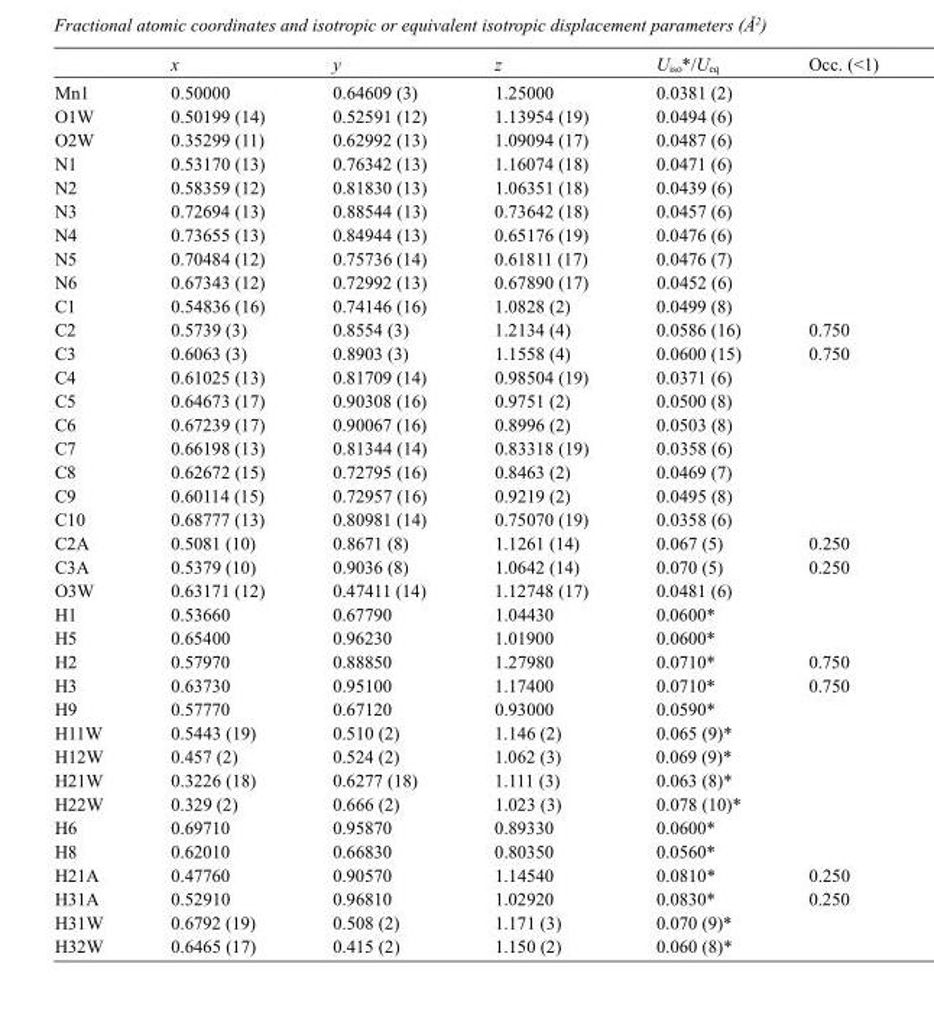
<table><thead><tr><td></td><td>x</td><td>y</td><td>z</td><td>U<sub>iso</sub>*/U<sub>eq</sub></td><td>Occ. (&lt;1)</td></tr></thead><tbody><tr><td>Mn1</td><td>0.50000</td><td>0.64609 (3)</td><td>1.25000</td><td>0.0381 (2)</td><td></td></tr><tr><td>O1W</td><td>0.50199 (14)</td><td>0.52591 (12)</td><td>1.13954 (19)</td><td>0.0494 (6)</td><td></td></tr><tr><td>O2W</td><td>0.35299 (11)</td><td>0.62992 (13)</td><td>1.09094 (17)</td><td>0.0487 (6)</td><td></td></tr><tr><td>N1</td><td>0.53170 (13)</td><td>0.76342 (13)</td><td>1.16074 (18)</td><td>0.0471 (6)</td><td></td></tr><tr><td>N2</td><td>0.58359 (12)</td><td>0.81830 (13)</td><td>1.06351 (18)</td><td>0.0439 (6)</td><td></td></tr><tr><td>N3</td><td>0.72694 (13)</td><td>0.88544 (13)</td><td>0.73642 (18)</td><td>0.0457 (6)</td><td></td></tr><tr><td>N4</td><td>0.73655 (13)</td><td>0.84944 (13)</td><td>0.65176 (19)</td><td>0.0476 (6)</td><td></td></tr><tr><td>N5</td><td>0.70484 (12)</td><td>0.75736 (14)</td><td>0.61811 (17)</td><td>0.0476 (7)</td><td></td></tr><tr><td>N6</td><td>0.67343 (12)</td><td>0.72992 (13)</td><td>0.67890 (17)</td><td>0.0452 (6)</td><td></td></tr><tr><td>C1</td><td>0.54836 (16)</td><td>0.74146 (16)</td><td>1.0828 (2)</td><td>0.0499 (8)</td><td></td></tr><tr><td>C2</td><td>0.5739 (3)</td><td>0.8554 (3)</td><td>1.2134 (4)</td><td>0.0586 (16)</td><td>0.750</td></tr><tr><td>C3</td><td>0.6063 (3)</td><td>0.8903 (3)</td><td>1.1558 (4)</td><td>0.0600 (15)</td><td>0.750</td></tr><tr><td>C4</td><td>0.61025 (13)</td><td>0.81709 (14)</td><td>0.98504 (19)</td><td>0.0371 (6)</td><td></td></tr><tr><td>C5</td><td>0.64673 (17)</td><td>0.90308 (16)</td><td>0.9751 (2)</td><td>0.0500 (8)</td><td></td></tr><tr><td>C6</td><td>0.67239 (17)</td><td>0.90067 (16)</td><td>0.8996 (2)</td><td>0.0503 (8)</td><td></td></tr><tr><td>C7</td><td>0.66198 (13)</td><td>0.81344 (14)</td><td>0.83318 (19)</td><td>0.0358 (6)</td><td></td></tr><tr><td>C8</td><td>0.62672 (15)</td><td>0.72795 (16)</td><td>0.8463 (2)</td><td>0.0469 (7)</td><td></td></tr><tr><td>C9</td><td>0.60114 (15)</td><td>0.72957 (16)</td><td>0.9219 (2)</td><td>0.0495 (8)</td><td></td></tr><tr><td>C10</td><td>0.68777 (13)</td><td>0.80981 (14)</td><td>0.75070 (19)</td><td>0.0358 (6)</td><td></td></tr><tr><td>C2A</td><td>0.5081 (10)</td><td>0.8671 (8)</td><td>1.1261 (14)</td><td>0.067 (5)</td><td>0.250</td></tr><tr><td>C3A</td><td>0.5379 (10)</td><td>0.9036 (8)</td><td>1.0642 (14)</td><td>0.070 (5)</td><td>0.250</td></tr><tr><td>O3W</td><td>0.63171 (12)</td><td>0.47411 (14)</td><td>1.12748 (17)</td><td>0.0481 (6)</td><td></td></tr><tr><td>H1</td><td>0.53660</td><td>0.67790</td><td>1.04430</td><td>0.0600*</td><td></td></tr><tr><td>H5</td><td>0.65400</td><td>0.96230</td><td>1.01900</td><td>0.0600*</td><td></td></tr><tr><td>H2</td><td>0.57970</td><td>0.88850</td><td>1.27980</td><td>0.0710*</td><td>0.750</td></tr><tr><td>H3</td><td>0.63730</td><td>0.95100</td><td>1.17400</td><td>0.0710*</td><td>0.750</td></tr><tr><td>H9</td><td>0.57770</td><td>0.67120</td><td>0.93000</td><td>0.0590*</td><td></td></tr><tr><td>H11W</td><td>0.5443 (19)</td><td>0.510 (2)</td><td>1.146 (2)</td><td>0.065 (9)*</td><td></td></tr><tr><td>H12W</td><td>0.457 (2)</td><td>0.524 (2)</td><td>1.062 (3)</td><td>0.069 (9)*</td><td></td></tr><tr><td>H21W</td><td>0.3226 (18)</td><td>0.6277 (18)</td><td>1.111 (3)</td><td>0.063 (8)*</td><td></td></tr><tr><td>H22W</td><td>0.329 (2)</td><td>0.666 (2)</td><td>1.023 (3)</td><td>0.078 (10)*</td><td></td></tr><tr><td>H6</td><td>0.69710</td><td>0.95870</td><td>0.89330</td><td>0.0600*</td><td></td></tr><tr><td>H8</td><td>0.62010</td><td>0.66830</td><td>0.80350</td><td>0.0560*</td><td></td></tr><tr><td>H21A</td><td>0.47760</td><td>0.90570</td><td>1.14540</td><td>0.0810*</td><td>0.250</td></tr><tr><td>H31A</td><td>0.52910</td><td>0.96810</td><td>1.02920</td><td>0.0830*</td><td>0.250</td></tr><tr><td>H31W</td><td>0.6792 (19)</td><td>0.508 (2)</td><td>1.171 (3)</td><td>0.070 (9)*</td><td></td></tr><tr><td>H32W</td><td>0.6465 (17)</td><td>0.415 (2)</td><td>1.150 (2)</td><td>0.060 (8)*</td><td></td></tr></tbody></table>